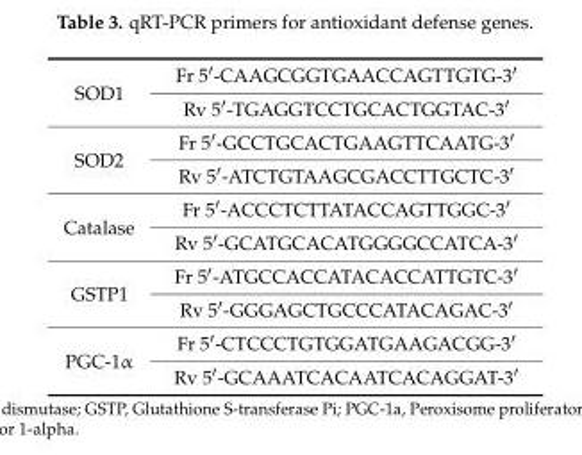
<table><tbody><tr><td rowspan="2">SOD1</td><td>Fr 5′-CAAGCGGTGAACCAGTTGTG-3′</td></tr><tr><td>Rv 5′-TGAGGTCCTGCACTGGTAC-3′</td></tr><tr><td rowspan="2">SOD2</td><td>Fr 5′-GCCTGCACTGAAGTTCAATG-3′</td></tr><tr><td>Rv 5′-ATCTGTAAGCGACCTTGCTC-3′</td></tr><tr><td rowspan="2">Catalase</td><td>Fr 5′-ACCCTCTTATACCAGTTGGC-3′</td></tr><tr><td>Rv 5′-GCATGCACATGGGGCCATCA-3′</td></tr><tr><td rowspan="2">GSTP1</td><td>Fr 5′-ATGCCACCATACACCATTGTC-3′</td></tr><tr><td>Rv 5′-GGGAGCTGCCCATACAGAC-3′</td></tr><tr><td rowspan="2">PGC-1α</td><td>Fr 5′-CTCCCTGTGGATGAAGACGG-3′</td></tr><tr><td>Rv 5′-GCAAATCACAATCACAGGAT-3′</td></tr></tbody></table>